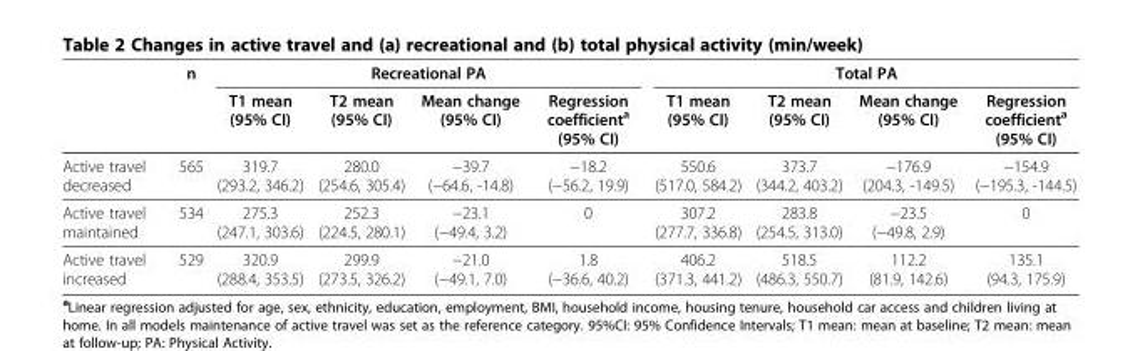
<table><thead><tr><td rowspan="2"></td><td rowspan="2">n</td><td colspan="4">Recreational PA</td><td colspan="4">Total PA</td></tr><tr><td>T1 mean (95% CI)</td><td>T2 mean (95% CI)</td><td>Mean change (95% CI)</td><td>Regression coefficient<sup>a</sup> (95% CI)</td><td>T1 mean (95% CI)</td><td>T2 mean (95% CI)</td><td>Mean change (95% CI)</td><td>Regression coefficient<sup>a</sup> (95% CI)</td></tr></thead><tbody><tr><td>Active travel decreased</td><td>565</td><td>319.7 (293.2, 346.2)</td><td>280.0 (254.6, 305.4)</td><td>−39.7 (−64.6, -14.8)</td><td>−18.2 (−56.2, 19.9)</td><td>550.6 (517.0, 584.2)</td><td>373.7 (344.2, 403.2)</td><td>−176.9 (204.3, -149.5)</td><td>−154.9 (−195.3, -144.5)</td></tr><tr><td>Active travel maintained</td><td>534</td><td>275.3 (247.1, 303.6)</td><td>252.3 (224.5, 280.1)</td><td>−23.1 (−49.4, 3.2)</td><td>0</td><td>307.2 (277.7, 336.8)</td><td>283.8 (254.5, 313.0)</td><td>−23.5 (−49.8, 2.9)</td><td>0</td></tr><tr><td>Active travel increased</td><td>529</td><td>320.9 (288.4, 353.5)</td><td>299.9 (273.5, 326.2)</td><td>−21.0 (−49.1, 7.0)</td><td>1.8 (−36.6, 40.2)</td><td>406.2 (371.3, 441.2)</td><td>518.5 (486.3, 550.7)</td><td>112.2 (81.9, 142.6)</td><td>135.1 (94.3, 175.9)</td></tr></tbody></table>